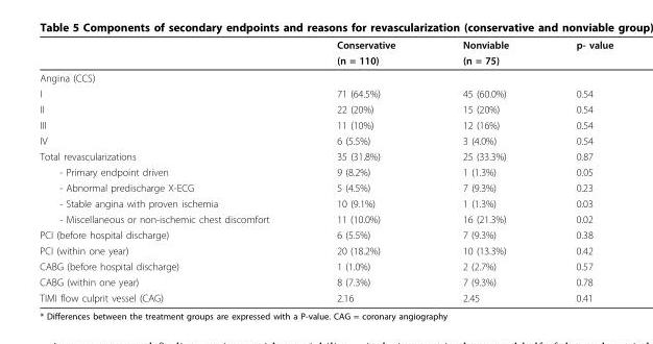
<table><thead><tr><td rowspan="2"></td><td rowspan="2">Conservative (n = 110)</td><td rowspan="2">Nonviable (n = 75)</td><td rowspan="2">p- value</td></tr><tr></tr></thead><tbody><tr><td colspan="4">Angina (CCS)</td></tr><tr><td>I</td><td>71 (64.5%)</td><td>45 (60.0%)</td><td>0.54</td></tr><tr><td>II</td><td>22 (20%)</td><td>15 (20%)</td><td>0.54</td></tr><tr><td>III</td><td>11 (10%)</td><td>12 (16%)</td><td>0.54</td></tr><tr><td>IV</td><td>6 (5.5%)</td><td>3 (4.0%)</td><td>0.54</td></tr><tr><td>Total revascularizations</td><td>35 (31.8%)</td><td>25 (33.3%)</td><td>0.87</td></tr><tr><td>- Primary endpoint driven</td><td>9 (8.2%)</td><td>1 (1.3%)</td><td>0.05</td></tr><tr><td>- Abnormal predischarge X-ECG</td><td>5 (4.5%)</td><td>7 (9.3%)</td><td>0.23</td></tr><tr><td>- Stable angina with proven ischemia</td><td>10 (9.1%)</td><td>1 (1.3%)</td><td>0.03</td></tr><tr><td>- Miscellaneous or non-ischemic chest discomfort</td><td>11 (10.0%)</td><td>16 (21.3%)</td><td>0.02</td></tr><tr><td>PCI (before hospital discharge)</td><td>6 (5.5%)</td><td>7 (9.3%)</td><td>0.38</td></tr><tr><td>PCI (within one year)</td><td>20 (18.2%)</td><td>10 (13.3%)</td><td>0.42</td></tr><tr><td>CABG (before hospital discharge)</td><td>1 (1.0%)</td><td>2 (2.7%)</td><td>0.57</td></tr><tr><td>CABG (within one year)</td><td>8 (7.3%)</td><td>7 (9.3%)</td><td>0.78</td></tr><tr><td>TIMI flow culprit vessel (CAG)</td><td>2.16</td><td>2.45</td><td>0.41</td></tr></tbody></table>